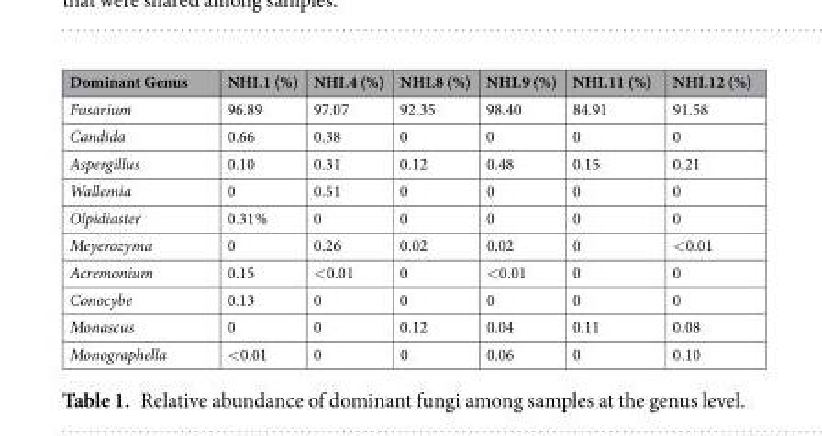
<table><thead><tr><td>Dominant Genus</td><td>NHI.1 (%)</td><td>NHI.4 (%)</td><td>NHI.8 (%)</td><td>NHI.9 (%)</td><td>NHI.11 (%)</td><td>NHI.12 (%)</td></tr></thead><tbody><tr><td>Fusarium</td><td>96.89</td><td>97.07</td><td>92.35</td><td>98.40</td><td>84.91</td><td>91.58</td></tr><tr><td>Candida</td><td>0.66</td><td>0.38</td><td>0</td><td>0</td><td>0</td><td>0</td></tr><tr><td>Aspergillus</td><td>0.10</td><td>0.31</td><td>0.12</td><td>0.48</td><td>0.15</td><td>0.21</td></tr><tr><td>Wallemia</td><td>0</td><td>0.51</td><td>0</td><td>0</td><td>0</td><td>0</td></tr><tr><td>Olpidiaster</td><td>0.31%</td><td>0</td><td>0</td><td>0</td><td>0</td><td>0</td></tr><tr><td>Meyerozyma</td><td>0</td><td>0.26</td><td>0.02</td><td>0.02</td><td>0</td><td>&lt;0.01</td></tr><tr><td>Acremonium</td><td>0.15</td><td>&lt;0.01</td><td>0</td><td>&lt;0.01</td><td>0</td><td>0</td></tr><tr><td>Conocybe</td><td>0.13</td><td>0</td><td>0</td><td>0</td><td>0</td><td>0</td></tr><tr><td>Monascus</td><td>0</td><td>0</td><td>0.12</td><td>0.04</td><td>0.11</td><td>0.08</td></tr><tr><td>Monographella</td><td>&lt;0.01</td><td>0</td><td>0</td><td>0.06</td><td>0</td><td>0.10</td></tr></tbody></table>